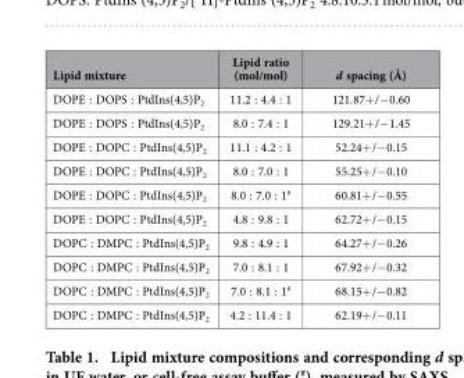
<table><thead><tr><td>Lipid mixture</td><td>Lipid ratio (mol/mol)</td><td>d spacing (Å)</td></tr></thead><tbody><tr><td>DOPE : DOPS : PtdIns(4,5)P<sub>2</sub></td><td>11.2 : 4.4 : 1</td><td>121.87+ /− 0.60</td></tr><tr><td>DOPE : DOPS : PtdIns(4,5)P<sub>2</sub></td><td>8.0 : 7.4 : 1</td><td>129.21+ /− 1.45</td></tr><tr><td>DOPE : DOPC : PtdIns(4,5)P<sub>2</sub></td><td>11.1 : 4.2 : 1</td><td>52.24+ /− 0.15</td></tr><tr><td>DOPE : DOPC : PtdIns(4,5)P<sub>2</sub></td><td>8.0 : 7.0 : 1</td><td>55.25+ /− 0.10</td></tr><tr><td>DOPE : DOPC : PtdIns(4,5)P<sub>2</sub></td><td>8.0 : 7.0 : 1<sup>#</sup></td><td>60.81+ /− 0.55</td></tr><tr><td>DOPE : DOPC : PtdIns(4,5)P<sub>2</sub></td><td>4.8 : 9.8 : 1</td><td>62.72+ /− 0.15</td></tr><tr><td>DOPC : DMPC : PtdIns(4,5)P<sub>2</sub></td><td>9.8 : 4.9 : 1</td><td>64.27+ /− 0.26</td></tr><tr><td>DOPC : DMPC : PtdIns(4,5)P<sub>2</sub></td><td>7.0 : 8.1 : 1</td><td>67.92+ /− 0.32</td></tr><tr><td>DOPC : DMPC : PtdIns(4,5)P<sub>2</sub></td><td>7.0 : 8.1 : 1<sup>#</sup></td><td>68.15+ /− 0.82</td></tr><tr><td>DOPC : DMPC : PtdIns(4,5)P<sub>2</sub></td><td>4.2 : 11.4 : 1</td><td>62.19+ /− 0.11</td></tr></tbody></table>